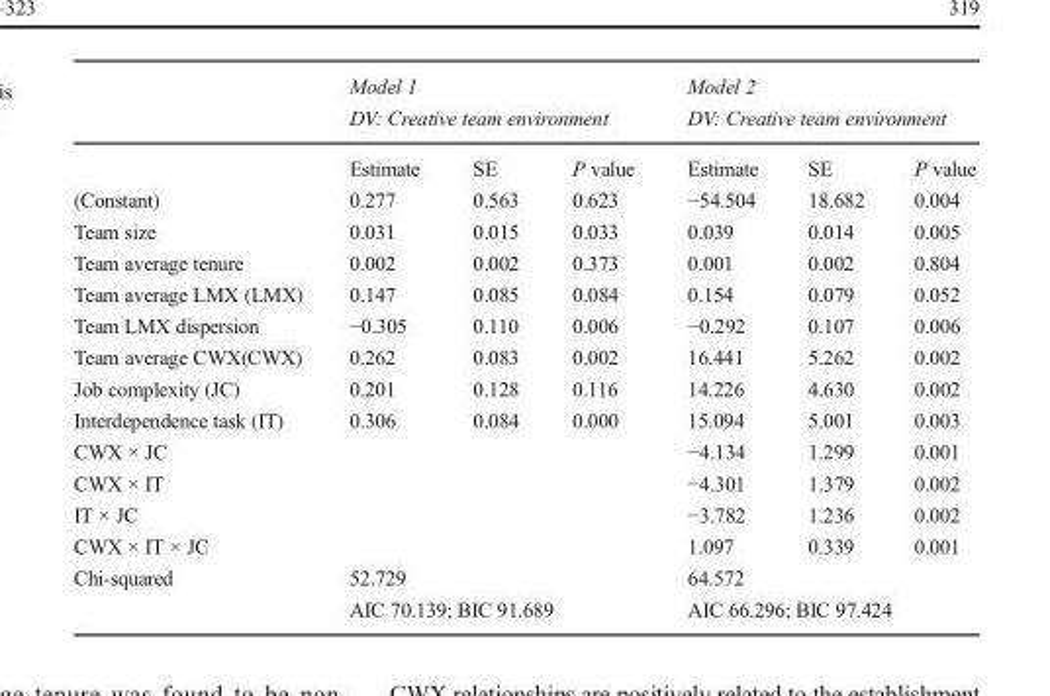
<table><thead><tr><td rowspan="2"></td><td colspan="3">Model 1 DV: Creative team environment</td><td colspan="3">Model 2 DV: Creative team environment</td></tr><tr><td>Estimate</td><td>SE</td><td>P value</td><td>Estimate</td><td>SE</td><td>P value</td></tr></thead><tbody><tr><td>(Constant)</td><td>0.277</td><td>0.563</td><td>0.623</td><td>−54.504</td><td>18.682</td><td>0.004</td></tr><tr><td>Team size</td><td>0.031</td><td>0.015</td><td>0.033</td><td>0.039</td><td>0.014</td><td>0.005</td></tr><tr><td>Team average tenure</td><td>0.002</td><td>0.002</td><td>0.373</td><td>0.001</td><td>0.002</td><td>0.804</td></tr><tr><td>Team average LMX (LMX)</td><td>0.147</td><td>0.085</td><td>0.084</td><td>0.154</td><td>0.079</td><td>0.052</td></tr><tr><td>Team LMX dispersion</td><td>−0.305</td><td>0.110</td><td>0.006</td><td>−0.292</td><td>0.107</td><td>0.006</td></tr><tr><td>Team average CWX(CWX)</td><td>0.262</td><td>0.083</td><td>0.002</td><td>16.441</td><td>5.262</td><td>0.002</td></tr><tr><td>Job complexity (JC)</td><td>0.201</td><td>0.128</td><td>0.116</td><td>14.226</td><td>4.630</td><td>0.002</td></tr><tr><td>Interdependence task (IT)</td><td>0.306</td><td>0.084</td><td>0.000</td><td>15.094</td><td>5.001</td><td>0.003</td></tr><tr><td>CWX × JC</td><td></td><td></td><td></td><td>−4.134</td><td>1.299</td><td>0.001</td></tr><tr><td>CWX × IT</td><td></td><td></td><td></td><td>−4.301</td><td>1.379</td><td>0.002</td></tr><tr><td>IT × JC</td><td></td><td></td><td></td><td>−3.782</td><td>1.236</td><td>0.002</td></tr><tr><td>CWX × IT × JC</td><td></td><td></td><td></td><td>1.097</td><td>0.339</td><td>0.001</td></tr><tr><td rowspan="2">Chi-squared</td><td colspan="3">52.729</td><td colspan="3">64.572</td></tr><tr><td colspan="3">AIC 70.139; BIC 91.689</td><td colspan="3">AIC 66.296; BIC 97.424</td></tr></tbody></table>